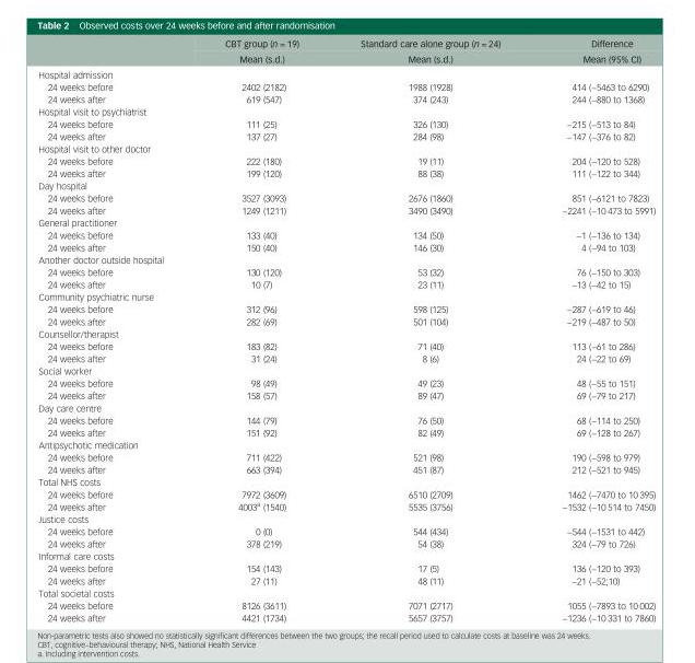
<table><thead><tr><td rowspan="2"></td><td rowspan="2">CBT group (n = 19) Mean (s.d.)</td><td rowspan="2">Standard care alone group (n = 24) Mean (s.d.)</td><td rowspan="2">Difference Mean (95% CI)</td></tr><tr></tr></thead><tbody><tr><td colspan="4">Hospital admission</td></tr><tr><td>24 weeks before</td><td>2402 (2182)</td><td>1988 (1928)</td><td>414 (−5463 to 6290)</td></tr><tr><td>24 weeks after</td><td>619 (547)</td><td>374 (243)</td><td>244 (−880 to 1368)</td></tr><tr><td colspan="4">Hospital visit to psychiatrist</td></tr><tr><td>24 weeks before</td><td>111 (25)</td><td>326 (130)</td><td>−215 (−513 to 84)</td></tr><tr><td>24 weeks after</td><td>137 (27)</td><td>284 (98)</td><td>−147 (−376 to 82)</td></tr><tr><td colspan="4">Hospital visit to other doctor</td></tr><tr><td>24 weeks before</td><td>222 (180)</td><td>19 (11)</td><td>204 (−120 to 528)</td></tr><tr><td>24 weeks after</td><td>199 (120)</td><td>88 (38)</td><td>111 (−122 to 344)</td></tr><tr><td colspan="4">Day hospital</td></tr><tr><td>24 weeks before</td><td>3527 (3093)</td><td>2676 (1860)</td><td>851 (−6121 to 7823)</td></tr><tr><td>24 weeks after</td><td>1249 (1211)</td><td>3490 (3490)</td><td>−2241 (−10 473 to 5991)</td></tr><tr><td colspan="4">General practitioner</td></tr><tr><td>24 weeks before</td><td>133 (40)</td><td>134 (50)</td><td>−1 (−136 to 134)</td></tr><tr><td>24 weeks after</td><td>150 (40)</td><td>146 (30)</td><td>4 (−94 to 103)</td></tr><tr><td colspan="4">Another doctor outside hospital</td></tr><tr><td>24 weeks before</td><td>130 (120)</td><td>53 (32)</td><td>76 (−150 to 303)</td></tr><tr><td>24 weeks after</td><td>10 (7)</td><td>23 (11)</td><td>−13 (−42 to 15)</td></tr><tr><td colspan="4">Community psychiatric nurse</td></tr><tr><td>24 weeks before</td><td>312 (96)</td><td>598 (125)</td><td>−287 (−619 to 46)</td></tr><tr><td>24 weeks after</td><td>282 (69)</td><td>501 (104)</td><td>−219 (−487 to 50)</td></tr><tr><td colspan="4">Counsellor/therapist</td></tr><tr><td>24 weeks before</td><td>183 (82)</td><td>71 (40)</td><td>113 (−61 to 286)</td></tr><tr><td>24 weeks after</td><td>31 (24)</td><td>8 (6)</td><td>24 (−22 to 69)</td></tr><tr><td colspan="4">Social worker</td></tr><tr><td>24 weeks before</td><td>98 (49)</td><td>49 (23)</td><td>48 (−55 to 151)</td></tr><tr><td>24 weeks after</td><td>158 (57)</td><td>89 (47)</td><td>69 (−79 to 217)</td></tr><tr><td colspan="4">Day care centre</td></tr><tr><td>24 weeks before</td><td>144 (79)</td><td>76 (50)</td><td>68 (−114 to 250)</td></tr><tr><td>24 weeks after</td><td>151 (92)</td><td>82 (49)</td><td>69 (−128 to 267)</td></tr><tr><td colspan="4">Antipsychotic medication</td></tr><tr><td>24 weeks before</td><td>711 (422)</td><td>521 (98)</td><td>190 (−598 to 979)</td></tr><tr><td>24 weeks after</td><td>663 (394)</td><td>451 (87)</td><td>212 (−521 to 945)</td></tr><tr><td colspan="4">Total NHS costs</td></tr><tr><td>24 weeks before</td><td>7972 (3609)</td><td>6510 (2709)</td><td>1462 (−7470 to 10 395)</td></tr><tr><td>24 weeks after</td><td>4003<sup>a</sup> (1540)</td><td>5535 (3756)</td><td>−1532 (−10 514 to 7450)</td></tr><tr><td colspan="4">Justice costs</td></tr><tr><td>24 weeks before</td><td>0 (0)</td><td>544 (434)</td><td>−544 (−1531 to 442)</td></tr><tr><td>24 weeks after</td><td>378 (219)</td><td>54 (38)</td><td>324 (−79 to 726)</td></tr><tr><td colspan="4">Informal care costs</td></tr><tr><td>24 weeks before</td><td>154 (143)</td><td>17 (5)</td><td>136 (−120 to 393)</td></tr><tr><td>24 weeks after</td><td>27 (11)</td><td>48 (11)</td><td>−21 (−52;10)</td></tr><tr><td colspan="4">Total societal costs</td></tr><tr><td>24 weeks before</td><td>8126 (3611)</td><td>7071 (2717)</td><td>1055 (−7893 to 10 002)</td></tr><tr><td>24 weeks after</td><td>4421 (1734)</td><td>5657 (3757)</td><td>−1236 (−10 331 to 7860)</td></tr></tbody></table>